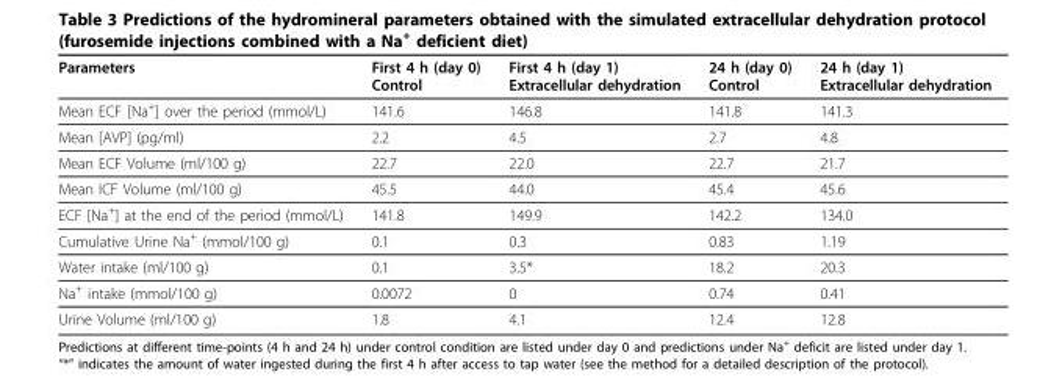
<table><thead><tr><td>Parameters</td><td>First 4 h (day 0) Control</td><td>First 4 h (day 1) Extracellular dehydration</td><td>24 h (day 0) Control</td><td>24 h (day 1) Extracellular dehydration</td></tr></thead><tbody><tr><td>Mean ECF [Na<sup>+</sup>] over the period (mmol/L)</td><td>141.6</td><td>146.8</td><td>141.8</td><td>141.3</td></tr><tr><td>Mean [AVP] (pg/ml)</td><td>2.2</td><td>4.5</td><td>2.7</td><td>4.8</td></tr><tr><td>Mean ECF Volume (ml/100 g)</td><td>22.7</td><td>22.0</td><td>22.7</td><td>21.7</td></tr><tr><td>Mean ICF Volume (ml/100 g)</td><td>45.5</td><td>44.0</td><td>45.4</td><td>45.6</td></tr><tr><td>ECF [Na<sup>+</sup>] at the end of the period (mmol/L)</td><td>141.8</td><td>149.9</td><td>142.2</td><td>134.0</td></tr><tr><td>Cumulative Urine Na<sup>+</sup> (mmol/100 g)</td><td>0.1</td><td>0.3</td><td>0.83</td><td>1.19</td></tr><tr><td>Water intake (ml/100 g)</td><td>0.1</td><td>3.5*</td><td>18.2</td><td>20.3</td></tr><tr><td>Na<sup>+</sup> intake (mmol/100 g)</td><td>0.0072</td><td>0</td><td>0.74</td><td>0.41</td></tr><tr><td>Urine Volume (ml/100 g)</td><td>1.8</td><td>4.1</td><td>12.4</td><td>12.8</td></tr></tbody></table>